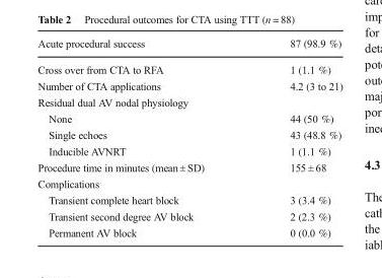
<table><thead><tr><td>Acute procedural success</td><td>87 (98.9 %)</td></tr></thead><tbody><tr><td>Cross over from CTA to RFA</td><td>1 (1.1 %)</td></tr><tr><td>Number of CTA applications</td><td>4.2 (3 to 21)</td></tr><tr><td colspan="2">Residual dual AV nodal physiology</td></tr><tr><td>None</td><td>44 (50 %)</td></tr><tr><td>Single echoes</td><td>43 (48.8 %)</td></tr><tr><td>Inducible AVNRT</td><td>1 (1.1 %)</td></tr><tr><td>Procedure time in minutes (mean ± SD)</td><td>155 ± 68</td></tr><tr><td colspan="2">Complications</td></tr><tr><td>Transient complete heart block</td><td>3 (3.4 %)</td></tr><tr><td>Transient second degree AV block</td><td>2 (2.3 %)</td></tr><tr><td>Permanent AV block</td><td>0 (0.0 %)</td></tr></tbody></table>